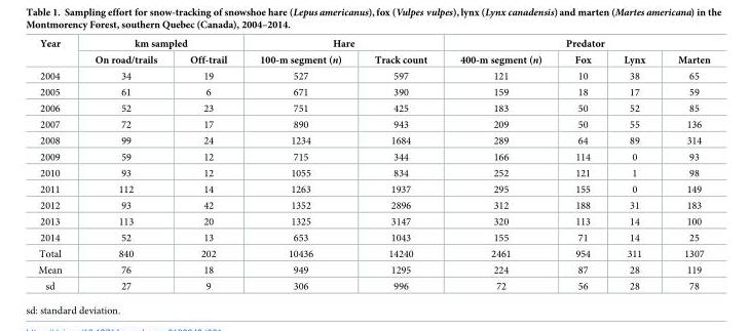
<table><thead><tr><td rowspan="2">Year</td><td colspan="2">km sampled</td><td colspan="2">Hare</td><td colspan="4">Predator</td></tr><tr><td>On road/trails</td><td>Off-trail</td><td>100-m segment (n)</td><td>Track count</td><td>400-m segment (n)</td><td>Fox</td><td>Lynx</td><td>Marten</td></tr></thead><tbody><tr><td>2004</td><td>34</td><td>19</td><td>527</td><td>597</td><td>121</td><td>10</td><td>38</td><td>65</td></tr><tr><td>2005</td><td>61</td><td>6</td><td>671</td><td>390</td><td>159</td><td>18</td><td>17</td><td>59</td></tr><tr><td>2006</td><td>52</td><td>23</td><td>751</td><td>425</td><td>183</td><td>50</td><td>52</td><td>85</td></tr><tr><td>2007</td><td>72</td><td>17</td><td>890</td><td>943</td><td>209</td><td>50</td><td>55</td><td>136</td></tr><tr><td>2008</td><td>99</td><td>24</td><td>1234</td><td>1684</td><td>289</td><td>64</td><td>89</td><td>314</td></tr><tr><td>2009</td><td>59</td><td>12</td><td>715</td><td>344</td><td>166</td><td>114</td><td>0</td><td>93</td></tr><tr><td>2010</td><td>93</td><td>12</td><td>1055</td><td>834</td><td>252</td><td>121</td><td>1</td><td>98</td></tr><tr><td>2011</td><td>112</td><td>14</td><td>1263</td><td>1937</td><td>295</td><td>155</td><td>0</td><td>149</td></tr><tr><td>2012</td><td>93</td><td>42</td><td>1352</td><td>2896</td><td>312</td><td>188</td><td>31</td><td>183</td></tr><tr><td>2013</td><td>113</td><td>20</td><td>1325</td><td>3147</td><td>320</td><td>113</td><td>14</td><td>100</td></tr><tr><td>2014</td><td>52</td><td>13</td><td>653</td><td>1043</td><td>155</td><td>71</td><td>14</td><td>25</td></tr><tr><td>Total</td><td>840</td><td>202</td><td>10436</td><td>14240</td><td>2461</td><td>954</td><td>311</td><td>1307</td></tr><tr><td>Mean</td><td>76</td><td>18</td><td>949</td><td>1295</td><td>224</td><td>87</td><td>28</td><td>119</td></tr><tr><td>sd</td><td>27</td><td>9</td><td>306</td><td>996</td><td>72</td><td>56</td><td>28</td><td>78</td></tr></tbody></table>